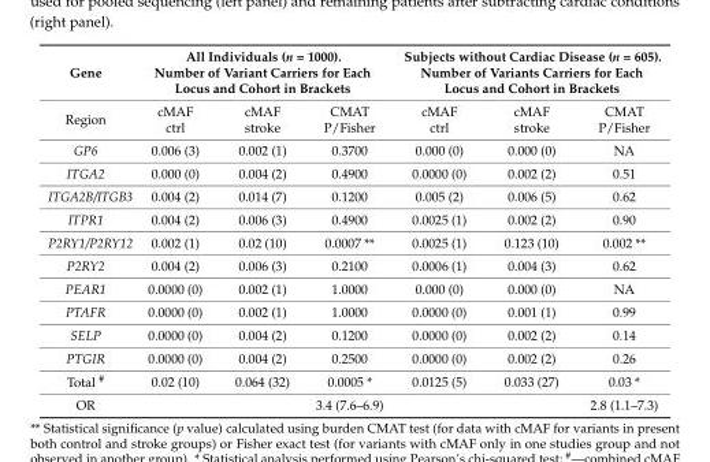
<table><thead><tr><td rowspan="2">Gene Region</td><td colspan="3">All Individuals (n = 1000). Number of Variant Carriers for Each Locus and Cohort in Brackets</td><td colspan="3">Subjects without Cardiac Disease (n = 605). Number of Variants Carriers for Each Locus and Cohort in Brackets</td></tr><tr><td>cMAF ctrl</td><td>cMAF stroke</td><td>CMAT P/Fisher</td><td>cMAF ctrl</td><td>cMAF stroke</td><td>CMAT P/Fisher</td></tr></thead><tbody><tr><td>GP6</td><td>0.006 (3)</td><td>0.002 (1)</td><td>0.3700</td><td>0.000 (0)</td><td>0.000 (0)</td><td>NA</td></tr><tr><td>ITGA2</td><td>0.000 (0)</td><td>0.004 (2)</td><td>0.4900</td><td>0.0000 (0)</td><td>0.002 (2)</td><td>0.51</td></tr><tr><td>ITGA2B/ITGB3</td><td>0.004 (2)</td><td>0.014 (7)</td><td>0.1200</td><td>0.005 (2)</td><td>0.006 (5)</td><td>0.62</td></tr><tr><td>ITPR1</td><td>0.004 (2)</td><td>0.006 (3)</td><td>0.4900</td><td>0.0025 (1)</td><td>0.002 (2)</td><td>0.90</td></tr><tr><td>P2RY1/P2RY12</td><td>0.002 (1)</td><td>0.02 (10)</td><td>0.0007 **</td><td>0.0025 (1)</td><td>0.123 (10)</td><td>0.002 **</td></tr><tr><td>P2RY2</td><td>0.004 (2)</td><td>0.006 (3)</td><td>0.2100</td><td>0.0006 (1)</td><td>0.004 (3)</td><td>0.62</td></tr><tr><td>PEAR1</td><td>0.0000 (0)</td><td>0.002 (1)</td><td>1.0000</td><td>0.000 (0)</td><td>0.000 (0)</td><td>NA</td></tr><tr><td>PTAFR</td><td>0.0000 (0)</td><td>0.002 (1)</td><td>1.0000</td><td>0.0000 (0)</td><td>0.001 (1)</td><td>0.99</td></tr><tr><td>SELP</td><td>0.0000 (0)</td><td>0.004 (2)</td><td>0.1200</td><td>0.0000 (0)</td><td>0.002 (2)</td><td>0.14</td></tr><tr><td>PTGIR</td><td>0.0000 (0)</td><td>0.004 (2)</td><td>0.2500</td><td>0.0000 (0)</td><td>0.002 (2)</td><td>0.26</td></tr><tr><td>Total <sup>#</sup></td><td>0.02 (10)</td><td>0.064 (32)</td><td>0.0005 *</td><td>0.0125 (5)</td><td>0.033 (27)</td><td>0.03 *</td></tr><tr><td>OR</td><td colspan="2"></td><td>3.4 (7.6–6.9)</td><td colspan="2"></td><td>2.8 (1.1–7.3)</td></tr></tbody></table>